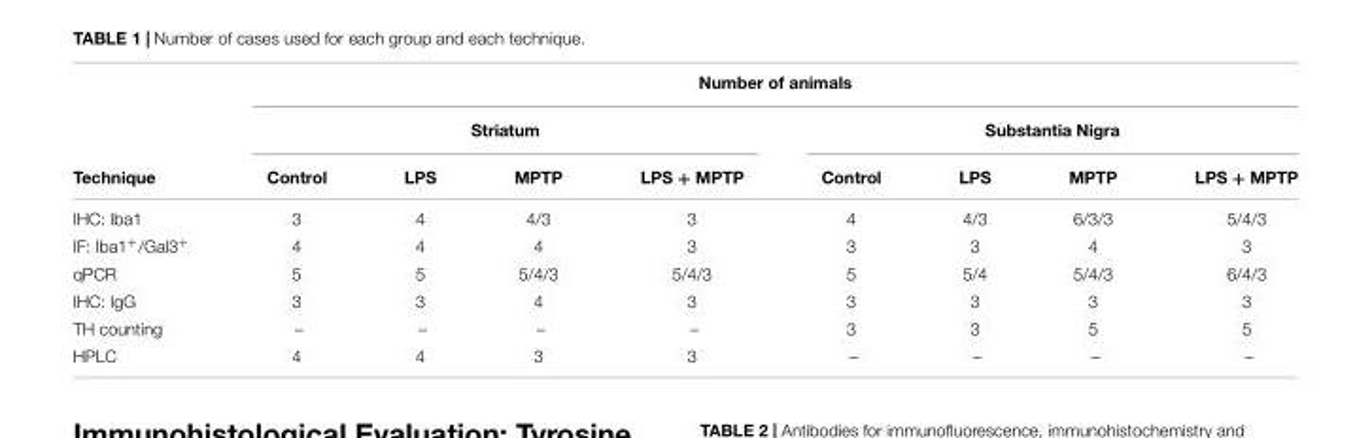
<table><thead><tr><td rowspan="3">Technique</td><td colspan="8">Number of animals</td></tr><tr><td colspan="4">Striatum</td><td colspan="4">Substantia Nigra</td></tr><tr><td>Control</td><td>LPS</td><td>MPTP</td><td>LPS + MPTP</td><td>Control</td><td>LPS</td><td>MPTP</td><td>LPS + MPTP</td></tr></thead><tbody><tr><td>IHC: Iba1</td><td>3</td><td>4</td><td>4/3</td><td>3</td><td>4</td><td>4/3</td><td>6/3/3</td><td>5/4/3</td></tr><tr><td>IF: Iba1<sup>+</sup>/Gal3<sup>+</sup></td><td>4</td><td>4</td><td>4</td><td>3</td><td>3</td><td>3</td><td>4</td><td>3</td></tr><tr><td>qPCR</td><td>5</td><td>5</td><td>5/4/3</td><td>5/4/3</td><td>5</td><td>5/4</td><td>5/4/3</td><td>6/4/3</td></tr><tr><td>IHC: IgG</td><td>3</td><td>3</td><td>4</td><td>3</td><td>3</td><td>3</td><td>3</td><td>3</td></tr><tr><td>TH counting</td><td>–</td><td>–</td><td>–</td><td>–</td><td>3</td><td>3</td><td>5</td><td>5</td></tr><tr><td>HPLC</td><td>4</td><td>4</td><td>3</td><td>3</td><td>–</td><td>–</td><td>–</td><td>–</td></tr></tbody></table>